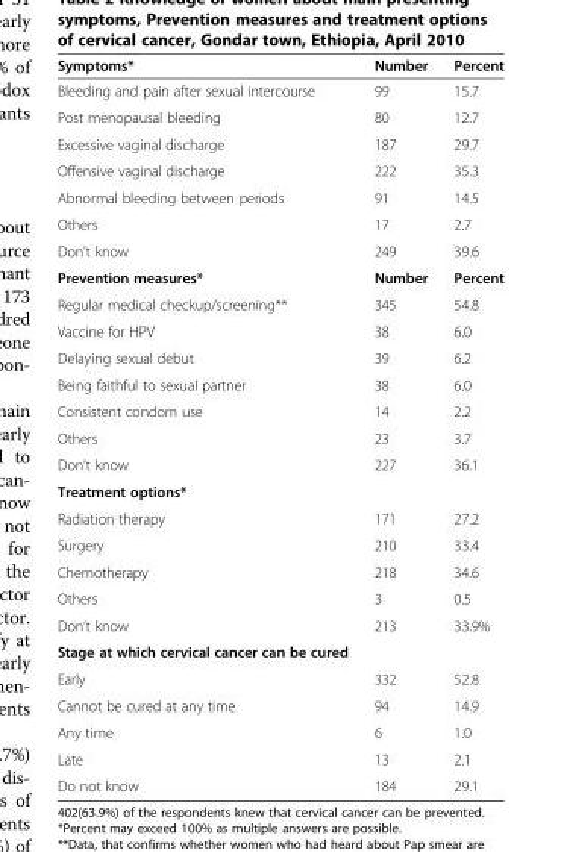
<table><thead><tr><td>Symptoms*</td><td>Number</td><td>Percent</td></tr></thead><tbody><tr><td>Bleeding and pain after sexual intercourse</td><td>99</td><td>15.7</td></tr><tr><td>Post menopausal bleeding</td><td>80</td><td>12.7</td></tr><tr><td>Excessive vaginal discharge</td><td>187</td><td>29.7</td></tr><tr><td>Offensive vaginal discharge</td><td>222</td><td>35.3</td></tr><tr><td>Abnormal bleeding between periods</td><td>91</td><td>14.5</td></tr><tr><td>Others</td><td>17</td><td>2.7</td></tr><tr><td>Don’t know</td><td>249</td><td>39.6</td></tr><tr><td>Prevention measures*</td><td>Number</td><td>Percent</td></tr><tr><td>Regular medical checkup/screening**</td><td>345</td><td>54.8</td></tr><tr><td>Vaccine for HPV</td><td>38</td><td>6.0</td></tr><tr><td>Delaying sexual debut</td><td>39</td><td>6.2</td></tr><tr><td>Being faithful to sexual partner</td><td>38</td><td>6.0</td></tr><tr><td>Consistent condom use</td><td>14</td><td>2.2</td></tr><tr><td>Others</td><td>23</td><td>3.7</td></tr><tr><td>Don’t know</td><td>227</td><td>36.1</td></tr><tr><td colspan="3">Treatment options*</td></tr><tr><td>Radiation therapy</td><td>171</td><td>27.2</td></tr><tr><td>Surgery</td><td>210</td><td>33.4</td></tr><tr><td>Chemotherapy</td><td>218</td><td>34.6</td></tr><tr><td>Others</td><td>3</td><td>0.5</td></tr><tr><td>Don’t know</td><td>213</td><td>33.9%</td></tr><tr><td colspan="3">Stage at which cervical cancer can be cured</td></tr><tr><td>Early</td><td>332</td><td>52.8</td></tr><tr><td>Cannot be cured at any time</td><td>94</td><td>14.9</td></tr><tr><td>Any time</td><td>6</td><td>1.0</td></tr><tr><td>Late</td><td>13</td><td>2.1</td></tr><tr><td>Do not know</td><td>184</td><td>29.1</td></tr></tbody></table>